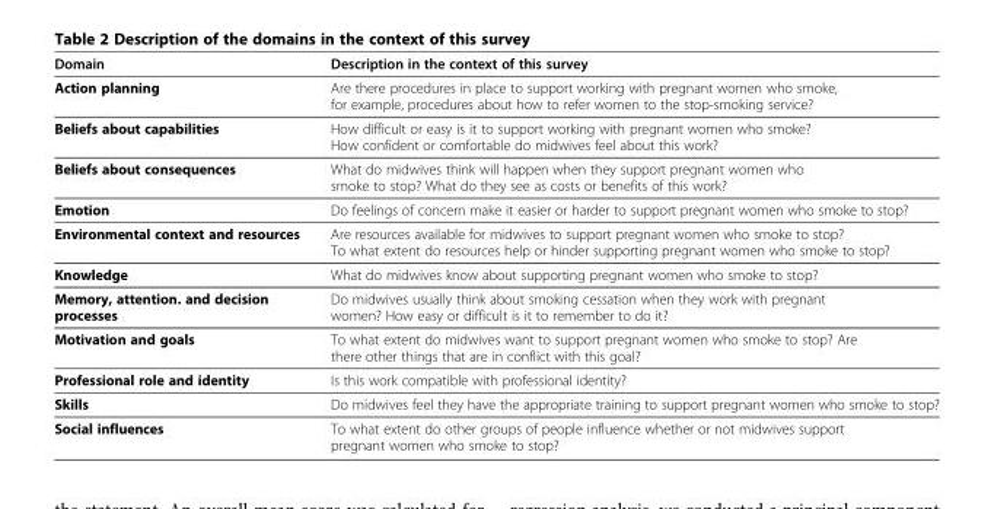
<table><thead><tr><td>Domain</td><td>Description in the context of this survey</td></tr></thead><tbody><tr><td>Action planning</td><td>Are there procedures in place to support working with pregnant women who smoke, for example, procedures about how to refer women to the stop-smoking service?</td></tr><tr><td>Beliefs about capabilities</td><td>How difficult or easy is it to support working with pregnant women who smoke? How confident or comfortable do midwives feel about this work?</td></tr><tr><td>Beliefs about consequences</td><td>What do midwives think will happen when they support pregnant women who smoke to stop? What do they see as costs or benefits of this work?</td></tr><tr><td>Emotion</td><td>Do feelings of concern make it easier or harder to support pregnant women who smoke to stop?</td></tr><tr><td>Environmental context and resources</td><td>Are resources available for midwives to support pregnant women who smoke to stop? To what extent do resources help or hinder supporting pregnant women who smoke to stop?</td></tr><tr><td>Knowledge</td><td>What do midwives know about supporting pregnant women who smoke to stop?</td></tr><tr><td>Memory, attention. and decision processes</td><td>Do midwives usually think about smoking cessation when they work with pregnant women? How easy or difficult is it to remember to do it?</td></tr><tr><td>Motivation and goals</td><td>To what extent do midwives want to support pregnant women who smoke to stop? Are there other things that are in conflict with this goal?</td></tr><tr><td>Professional role and identity</td><td>Is this work compatible with professional identity?</td></tr><tr><td>Skills</td><td>Do midwives feel they have the appropriate training to support pregnant women who smoke to stop?</td></tr><tr><td>Social influences</td><td>To what extent do other groups of people influence whether or not midwives support pregnant women who smoke to stop?</td></tr></tbody></table>